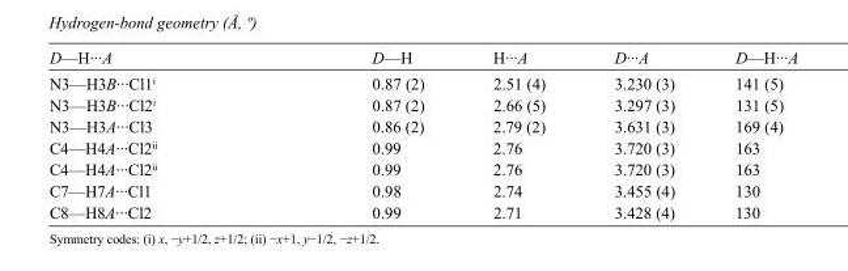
<table><tbody><tr><td>D—H···A</td><td>D—H</td><td>H···A</td><td>D···A</td><td>D—H···A</td></tr><tr><td>N3—H3B···Cl1<sup>i</sup></td><td>0.87 (2)</td><td>2.51 (4)</td><td>3.230 (3)</td><td>141 (5)</td></tr><tr><td>N3—H3B···Cl2<sup>i</sup></td><td>0.87 (2)</td><td>2.66 (5)</td><td>3.297 (3)</td><td>131 (5)</td></tr><tr><td>N3—H3A···Cl3</td><td>0.86 (2)</td><td>2.79 (2)</td><td>3.631 (3)</td><td>169 (4)</td></tr><tr><td>C4—H4A···Cl2<sup>ii</sup></td><td>0.99</td><td>2.76</td><td>3.720 (3)</td><td>163</td></tr><tr><td>C4—H4A···Cl2<sup>ii</sup></td><td>0.99</td><td>2.76</td><td>3.720 (3)</td><td>163</td></tr><tr><td>C7—H7A···Cl1</td><td>0.98</td><td>2.74</td><td>3.455 (4)</td><td>130</td></tr><tr><td>C8—H8A···Cl2</td><td>0.99</td><td>2.71</td><td>3.428 (4)</td><td>130</td></tr></tbody></table>